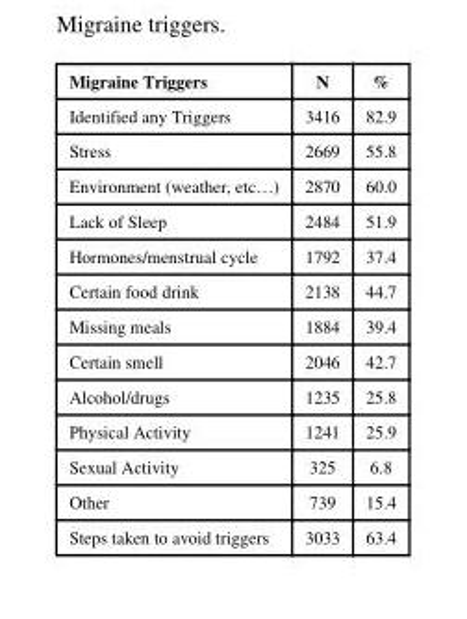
<table><thead><tr><td>Migraine Triggers</td><td>N</td><td>%</td></tr></thead><tbody><tr><td>Identified any Triggers</td><td>3416</td><td>82.9</td></tr><tr><td>Stress</td><td>2669</td><td>55.8</td></tr><tr><td>Environment (weather, etc…)</td><td>2870</td><td>60.0</td></tr><tr><td>Lack of Sleep</td><td>2484</td><td>51.9</td></tr><tr><td>Hormones/menstrual cycle</td><td>1792</td><td>37.4</td></tr><tr><td>Certain food drink</td><td>2138</td><td>44.7</td></tr><tr><td>Missing meals</td><td>1884</td><td>39.4</td></tr><tr><td>Certain smell</td><td>2046</td><td>42.7</td></tr><tr><td>Alcohol/drugs</td><td>1235</td><td>25.8</td></tr><tr><td>Physical Activity</td><td>1241</td><td>25.9</td></tr><tr><td>Sexual Activity</td><td>325</td><td>6.8</td></tr><tr><td>Other</td><td>739</td><td>15.4</td></tr><tr><td>Steps taken to avoid triggers</td><td>3033</td><td>63.4</td></tr></tbody></table>